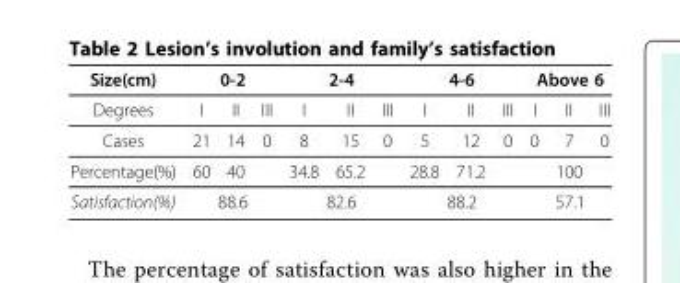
<table><thead><tr><td rowspan="2">Size(cm) Degrees</td><td colspan="3">0-2</td><td colspan="3">2-4</td><td colspan="3">4-6</td><td colspan="3">Above 6</td></tr><tr><td>I</td><td>II</td><td>III</td><td>I</td><td>II</td><td>III</td><td>I</td><td>II</td><td>III</td><td>I</td><td>II</td><td>III</td></tr></thead><tbody><tr><td>Cases</td><td>21</td><td>14</td><td>0</td><td>8</td><td>15</td><td>0</td><td>5</td><td>12</td><td>0</td><td>0</td><td>7</td><td>0</td></tr><tr><td>Percentage(%)</td><td>60</td><td>40</td><td></td><td>34.8</td><td>65.2</td><td></td><td>28.8</td><td>71.2</td><td></td><td></td><td>100</td><td></td></tr><tr><td>Satisfaction(%)</td><td colspan="3">88.6</td><td colspan="3">82.6</td><td colspan="3">88.2</td><td colspan="3">57.1</td></tr></tbody></table>